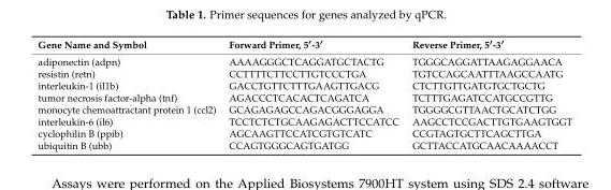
<table><thead><tr><td>Gene Name and Symbol</td><td>Forward Primer, 5′-3′</td><td>Reverse Primer, 5′-3′</td></tr></thead><tbody><tr><td>adiponectin (adpn)</td><td>AAAAGGGCTCAGGATGCTACTG</td><td>TGGGCAGGATTAAGAGGAACA</td></tr><tr><td>resistin (retn)</td><td>CCTTTTCTTCCTTGTCCCTGA</td><td>TGTCCAGCAATTTAAGCCAATG</td></tr><tr><td>interleukin-1 (il1b)</td><td>GACCTGTTCTTTGAAGTTGACG</td><td>CTCTTGTTGATGTGCTGCTG</td></tr><tr><td>tumor necrosis factor-alpha (tnf)</td><td>AGACCCTCACACTCAGATCA</td><td>TCTTTGAGATCCATGCCGTTG</td></tr><tr><td>monocyte chemoattractant protein 1 (ccl2)</td><td>GCAGAGAGCCAGACGGGAGGA</td><td>TGGGGCGTTAACTGCATCTGG</td></tr><tr><td>interleukin-6 (il6)</td><td>TCCTCTCTGCAAGAGACTTCCATCC</td><td>AAGCCTCCGACTTGTGAAGTGGT</td></tr><tr><td>cyclophilin B (ppib)</td><td>AGCAAGTTCCATCGTGTCATC</td><td>CCGTAGTGCTTCAGCTTGA</td></tr><tr><td>ubiquitin B (ubb)</td><td>CCAGTGGGCAGTGATGG</td><td>GCTTACCATGCAACAAAACCT</td></tr></tbody></table>